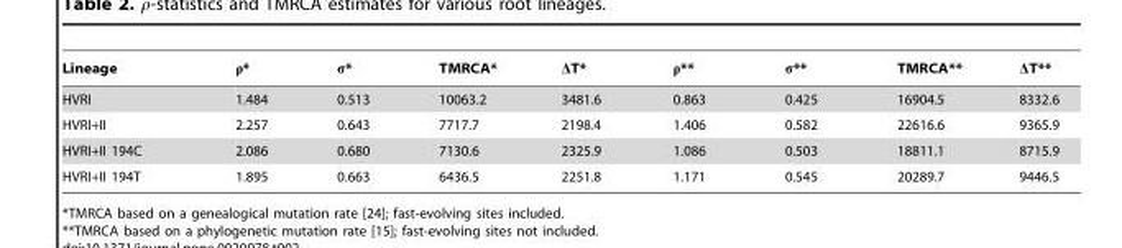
<table><thead><tr><td>Lineage</td><td>ρ*</td><td>σ*</td><td>TMRCA*</td><td>ΔT*</td><td>ρ**</td><td>σ**</td><td>TMRCA**</td><td>ΔT**</td></tr></thead><tbody><tr><td>HVRI</td><td>1.484</td><td>0.513</td><td>10063.2</td><td>3481.6</td><td>0.863</td><td>0.425</td><td>16904.5</td><td>8332.6</td></tr><tr><td>HVRI+II</td><td>2.257</td><td>0.643</td><td>7717.7</td><td>2198.4</td><td>1.406</td><td>0.582</td><td>22616.6</td><td>9365.9</td></tr><tr><td>HVRI+II 194C</td><td>2.086</td><td>0.680</td><td>7130.6</td><td>2325.9</td><td>1.086</td><td>0.503</td><td>18811.1</td><td>8715.9</td></tr><tr><td>HVRI+II 194T</td><td>1.895</td><td>0.663</td><td>6436.5</td><td>2251.8</td><td>1.171</td><td>0.545</td><td>20289.7</td><td>9446.5</td></tr></tbody></table>